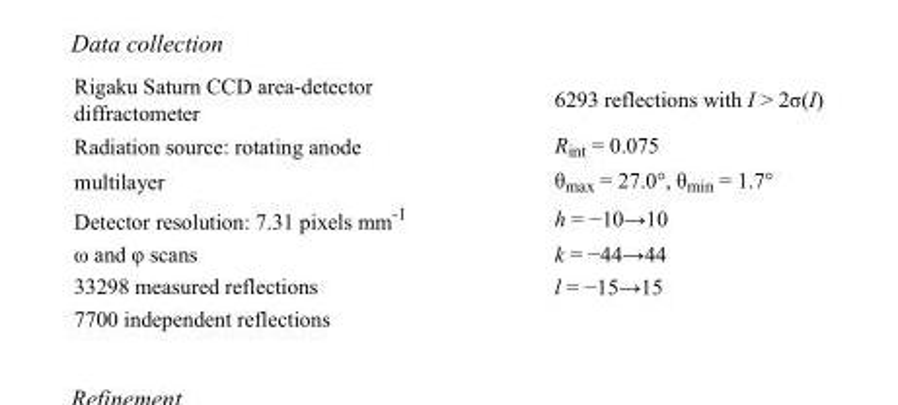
<table><tbody><tr><td>Rigaku Saturn CCD area-detector diffractometer</td><td>6293 reflections with I &gt; 2σ(I)</td></tr><tr><td>Radiation source: rotating anode</td><td>R<sub>int</sub> = 0.075</td></tr><tr><td>multilayer</td><td>θ<sub>max</sub> = 27.0°, θ<sub>min</sub> = 1.7°</td></tr><tr><td>Detector resolution: 7.31 pixels mm<sup>-1</sup></td><td>h = −10→10</td></tr><tr><td>ω and φ scans</td><td>k = −44→44</td></tr><tr><td>33298 measured reflections</td><td>l = −15→15</td></tr><tr><td>7700 independent reflections</td><td></td></tr></tbody></table>